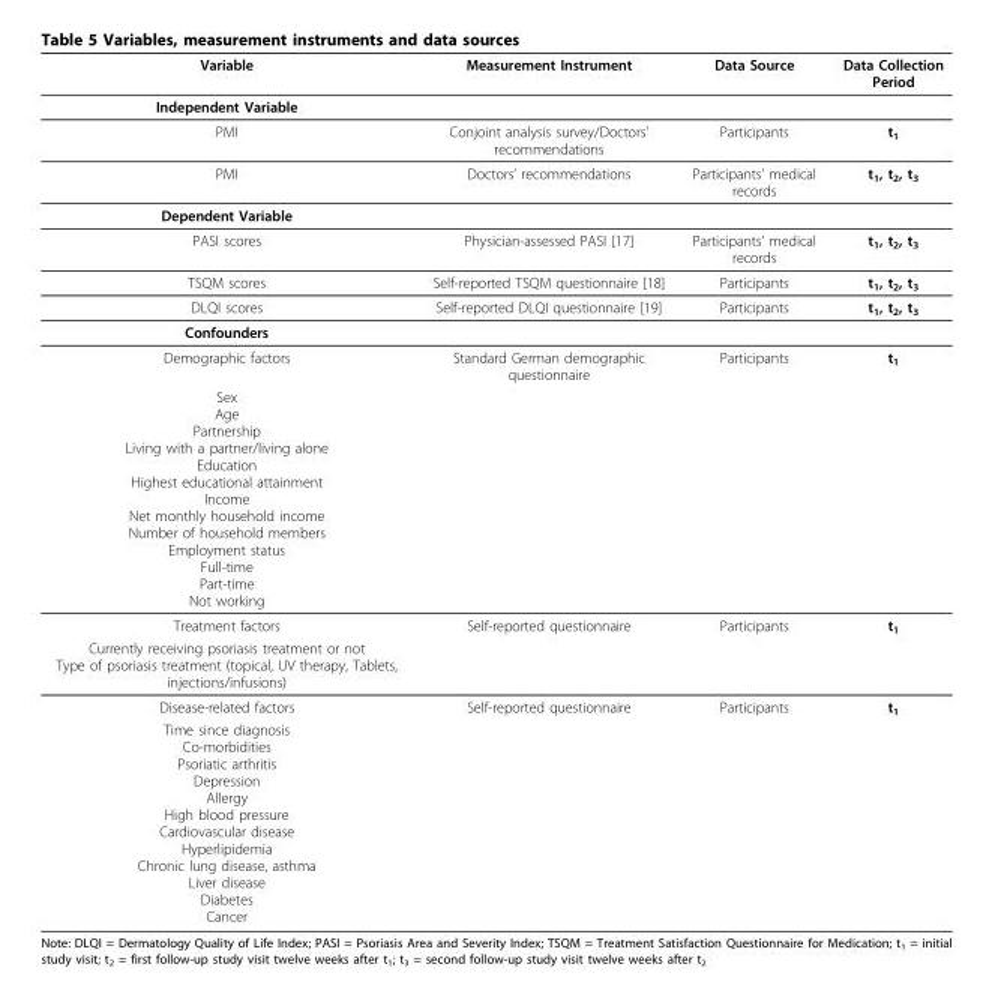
<table><thead><tr><td>Variable</td><td>Measurement Instrument</td><td>Data Source</td><td>Data Collection Period</td></tr></thead><tbody><tr><td colspan="4">Independent Variable</td></tr><tr><td>PMI</td><td>Conjoint analysis survey/Doctors’ recommendations</td><td>Participants</td><td>t<sub>1</sub></td></tr><tr><td>PMI</td><td>Doctors’ recommendations</td><td>Participants’ medical records</td><td>t<sub>1</sub>, t<sub>2</sub>, t<sub>3</sub></td></tr><tr><td colspan="4">Dependent Variable</td></tr><tr><td>PASI scores</td><td>Physician-assessed PASI [17]</td><td>Participants’ medical records</td><td>t<sub>1</sub>, t<sub>2</sub>, t<sub>3</sub></td></tr><tr><td>TSQM scores</td><td>Self-reported TSQM questionnaire [18]</td><td>Participants</td><td>t<sub>1</sub>, t<sub>2</sub>, t<sub>3</sub></td></tr><tr><td>DLQI scores</td><td>Self-reported DLQI questionnaire [19]</td><td>Participants</td><td>t<sub>1</sub>, t<sub>2</sub>, t<sub>3</sub></td></tr><tr><td colspan="4">Confounders</td></tr><tr><td>Demographic factors</td><td>Standard German demographic questionnaire</td><td>Participants</td><td>t<sub>1</sub></td></tr><tr><td colspan="4">Sex Age Partnership Living with a partner/living alone Education Highest educational attainment Income Net monthly household income Number of household members Employment status Full-time Part-time Not working</td></tr><tr><td>Treatment factors</td><td>Self-reported questionnaire</td><td>Participants</td><td>t<sub>1</sub></td></tr><tr><td colspan="4">Currently receiving psoriasis treatment or not Type of psoriasis treatment (topical, UV therapy, Tablets, injections/infusions)</td></tr><tr><td>Disease-related factors</td><td>Self-reported questionnaire</td><td>Participants</td><td>t<sub>1</sub></td></tr><tr><td>Time since diagnosis Co-morbidities Psoriatic arthritis Depression Allergy High blood pressure Cardiovascular disease Hyperlipidemia Chronic lung disease, asthma Liver disease Diabetes Cancer</td><td></td><td></td><td></td></tr></tbody></table>